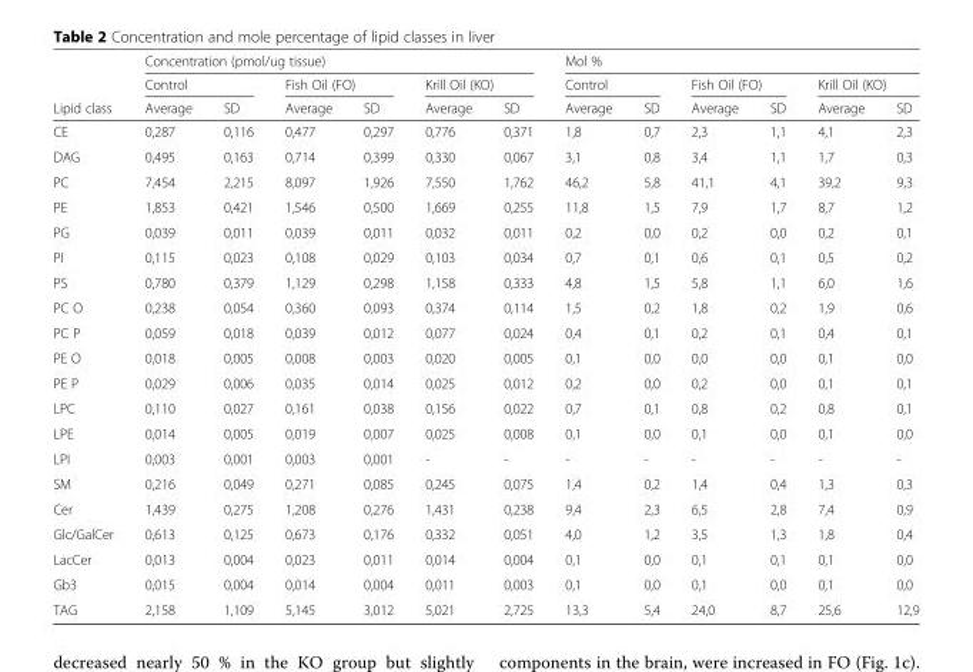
<table><thead><tr><td rowspan="3">Lipid class</td><td colspan="6">Concentration (pmol/ug tissue)</td><td colspan="6">Mol %</td></tr><tr><td colspan="2">Control</td><td colspan="2">Fish Oil (FO)</td><td colspan="2">Krill Oil (KO)</td><td colspan="2">Control</td><td colspan="2">Fish Oil (FO)</td><td colspan="2">Krill Oil (KO)</td></tr><tr><td>Average</td><td>SD</td><td>Average</td><td>SD</td><td>Average</td><td>SD</td><td>Average</td><td>SD</td><td>Average</td><td>SD</td><td>Average</td><td>SD</td></tr></thead><tbody><tr><td>CE</td><td>0,287</td><td>0,116</td><td>0,477</td><td>0,297</td><td>0,776</td><td>0,371</td><td>1,8</td><td>0,7</td><td>2,3</td><td>1,1</td><td>4,1</td><td>2,3</td></tr><tr><td>DAG</td><td>0,495</td><td>0,163</td><td>0,714</td><td>0,399</td><td>0,330</td><td>0,067</td><td>3,1</td><td>0,8</td><td>3,4</td><td>1,1</td><td>1,7</td><td>0,3</td></tr><tr><td>PC</td><td>7,454</td><td>2,215</td><td>8,097</td><td>1,926</td><td>7,550</td><td>1,762</td><td>46,2</td><td>5,8</td><td>41,1</td><td>4,1</td><td>39,2</td><td>9,3</td></tr><tr><td>PE</td><td>1,853</td><td>0,421</td><td>1,546</td><td>0,500</td><td>1,669</td><td>0,255</td><td>11,8</td><td>1,5</td><td>7,9</td><td>1,7</td><td>8,7</td><td>1,2</td></tr><tr><td>PG</td><td>0,039</td><td>0,011</td><td>0,039</td><td>0,011</td><td>0,032</td><td>0,011</td><td>0,2</td><td>0,0</td><td>0,2</td><td>0,0</td><td>0,2</td><td>0,1</td></tr><tr><td>PI</td><td>0,115</td><td>0,023</td><td>0,108</td><td>0,029</td><td>0,103</td><td>0,034</td><td>0,7</td><td>0,1</td><td>0,6</td><td>0,1</td><td>0,5</td><td>0,2</td></tr><tr><td>PS</td><td>0,780</td><td>0,379</td><td>1,129</td><td>0,298</td><td>1,158</td><td>0,333</td><td>4,8</td><td>1,5</td><td>5,8</td><td>1,1</td><td>6,0</td><td>1,6</td></tr><tr><td>PC O</td><td>0,238</td><td>0,054</td><td>0,360</td><td>0,093</td><td>0,374</td><td>0,114</td><td>1,5</td><td>0,2</td><td>1,8</td><td>0,2</td><td>1,9</td><td>0,6</td></tr><tr><td>PC P</td><td>0,059</td><td>0,018</td><td>0,039</td><td>0,012</td><td>0,077</td><td>0,024</td><td>0,4</td><td>0,1</td><td>0,2</td><td>0,1</td><td>0,4</td><td>0,1</td></tr><tr><td>PE O</td><td>0,018</td><td>0,005</td><td>0,008</td><td>0,003</td><td>0,020</td><td>0,005</td><td>0,1</td><td>0,0</td><td>0,0</td><td>0,0</td><td>0,1</td><td>0,0</td></tr><tr><td>PE P</td><td>0,029</td><td>0,006</td><td>0,035</td><td>0,014</td><td>0,025</td><td>0,012</td><td>0,2</td><td>0,0</td><td>0,2</td><td>0,0</td><td>0,1</td><td>0,1</td></tr><tr><td>LPC</td><td>0,110</td><td>0,027</td><td>0,161</td><td>0,038</td><td>0,156</td><td>0,022</td><td>0,7</td><td>0,1</td><td>0,8</td><td>0,2</td><td>0,8</td><td>0,1</td></tr><tr><td>LPE</td><td>0,014</td><td>0,005</td><td>0,019</td><td>0,007</td><td>0,025</td><td>0,008</td><td>0,1</td><td>0,0</td><td>0,1</td><td>0,0</td><td>0,1</td><td>0,0</td></tr><tr><td>LPI</td><td>0,003</td><td>0,001</td><td>0,003</td><td>0,001</td><td>-</td><td>-</td><td>-</td><td>-</td><td>-</td><td>-</td><td>-</td><td>-</td></tr><tr><td>SM</td><td>0,216</td><td>0,049</td><td>0,271</td><td>0,085</td><td>0,245</td><td>0,075</td><td>1,4</td><td>0,2</td><td>1,4</td><td>0,4</td><td>1,3</td><td>0,3</td></tr><tr><td>Cer</td><td>1,439</td><td>0,275</td><td>1,208</td><td>0,276</td><td>1,431</td><td>0,238</td><td>9,4</td><td>2,3</td><td>6,5</td><td>2,8</td><td>7,4</td><td>0,9</td></tr><tr><td>Glc/GalCer</td><td>0,613</td><td>0,125</td><td>0,673</td><td>0,176</td><td>0,332</td><td>0,051</td><td>4,0</td><td>1,2</td><td>3,5</td><td>1,3</td><td>1,8</td><td>0,4</td></tr><tr><td>LacCer</td><td>0,013</td><td>0,004</td><td>0,023</td><td>0,011</td><td>0,014</td><td>0,004</td><td>0,1</td><td>0,0</td><td>0,1</td><td>0,1</td><td>0,1</td><td>0,0</td></tr><tr><td>Gb3</td><td>0,015</td><td>0,004</td><td>0,014</td><td>0,004</td><td>0,011</td><td>0,003</td><td>0,1</td><td>0,0</td><td>0,1</td><td>0,0</td><td>0,1</td><td>0,0</td></tr><tr><td>TAG</td><td>2,158</td><td>1,109</td><td>5,145</td><td>3,012</td><td>5,021</td><td>2,725</td><td>13,3</td><td>5,4</td><td>24,0</td><td>8,7</td><td>25,6</td><td>12,9</td></tr></tbody></table>